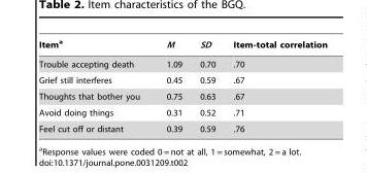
<table><thead><tr><td>Item<sup>a</sup></td><td>M</td><td>SD</td><td>Item-total correlation</td></tr></thead><tbody><tr><td>Trouble accepting death</td><td>1.09</td><td>0.70</td><td>.70</td></tr><tr><td>Grief still interferes</td><td>0.45</td><td>0.59</td><td>.67</td></tr><tr><td>Thoughts that bother you</td><td>0.75</td><td>0.63</td><td>.67</td></tr><tr><td>Avoid doing things</td><td>0.31</td><td>0.52</td><td>.71</td></tr><tr><td>Feel cut off or distant</td><td>0.39</td><td>0.59</td><td>.76</td></tr></tbody></table>